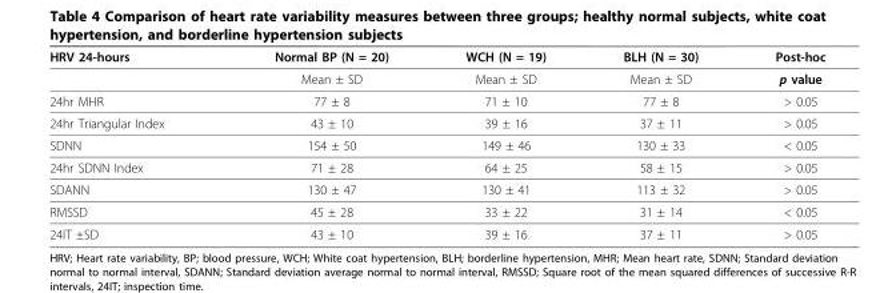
<table><thead><tr><td>HRV 24-hours</td><td>Normal BP (N = 20)</td><td>WCH (N = 19)</td><td>BLH (N = 30)</td><td>Post-hoc</td></tr></thead><tbody><tr><td></td><td>Mean ± SD</td><td>Mean ± SD</td><td>Mean ± SD</td><td>p value</td></tr><tr><td>24hr MHR</td><td>77 ± 8</td><td>71 ± 10</td><td>77 ± 8</td><td>&gt; 0.05</td></tr><tr><td>24hr Triangular Index</td><td>43 ± 10</td><td>39 ± 16</td><td>37 ± 11</td><td>&gt; 0.05</td></tr><tr><td>SDNN</td><td>154 ± 50</td><td>149 ± 46</td><td>130 ± 33</td><td>&lt; 0.05</td></tr><tr><td>24hr SDNN Index</td><td>71 ± 28</td><td>64 ± 25</td><td>58 ± 15</td><td>&gt; 0.05</td></tr><tr><td>SDANN</td><td>130 ± 47</td><td>130 ± 41</td><td>113 ± 32</td><td>&gt; 0.05</td></tr><tr><td>RMSSD</td><td>45 ± 28</td><td>33 ± 22</td><td>31 ± 14</td><td>&lt; 0.05</td></tr><tr><td>24IT ±SD</td><td>43 ± 10</td><td>39 ± 16</td><td>37 ± 11</td><td>&gt; 0.05</td></tr></tbody></table>